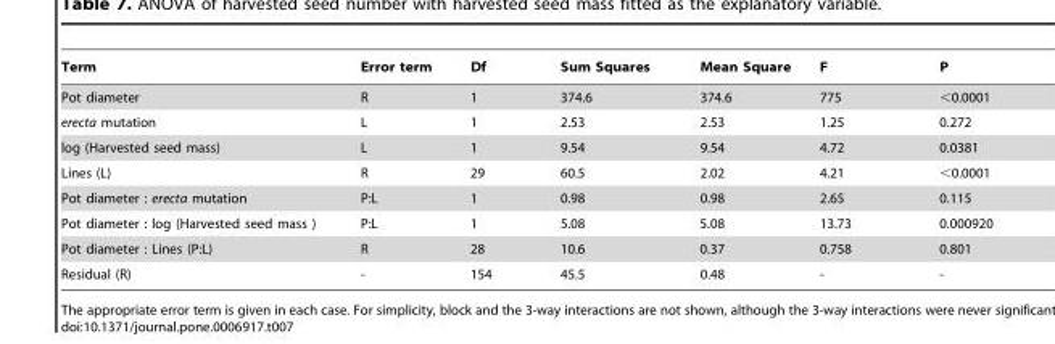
<table><thead><tr><td>Term</td><td>Error term</td><td>Df</td><td>Sum Squares</td><td>Mean Square</td><td>F</td><td>P</td></tr></thead><tbody><tr><td>Pot diameter</td><td>R</td><td>1</td><td>374.6</td><td>374.6</td><td>775</td><td>&lt;0.0001</td></tr><tr><td>erecta mutation</td><td>L</td><td>1</td><td>2.53</td><td>2.53</td><td>1.25</td><td>0.272</td></tr><tr><td>log (Harvested seed mass)</td><td>L</td><td>1</td><td>9.54</td><td>9.54</td><td>4.72</td><td>0.0381</td></tr><tr><td>Lines (L)</td><td>R</td><td>29</td><td>60.5</td><td>2.02</td><td>4.21</td><td>&lt;0.0001</td></tr><tr><td>Pot diameter : erecta mutation</td><td>P:L</td><td>1</td><td>0.98</td><td>0.98</td><td>2.65</td><td>0.115</td></tr><tr><td>Pot diameter : log (Harvested seed mass )</td><td>P:L</td><td>1</td><td>5.08</td><td>5.08</td><td>13.73</td><td>0.000920</td></tr><tr><td>Pot diameter : Lines (P:L)</td><td>R</td><td>28</td><td>10.6</td><td>0.37</td><td>0.758</td><td>0.801</td></tr><tr><td>Residual (R)</td><td>-</td><td>154</td><td>45.5</td><td>0.48</td><td>-</td><td>-</td></tr></tbody></table>